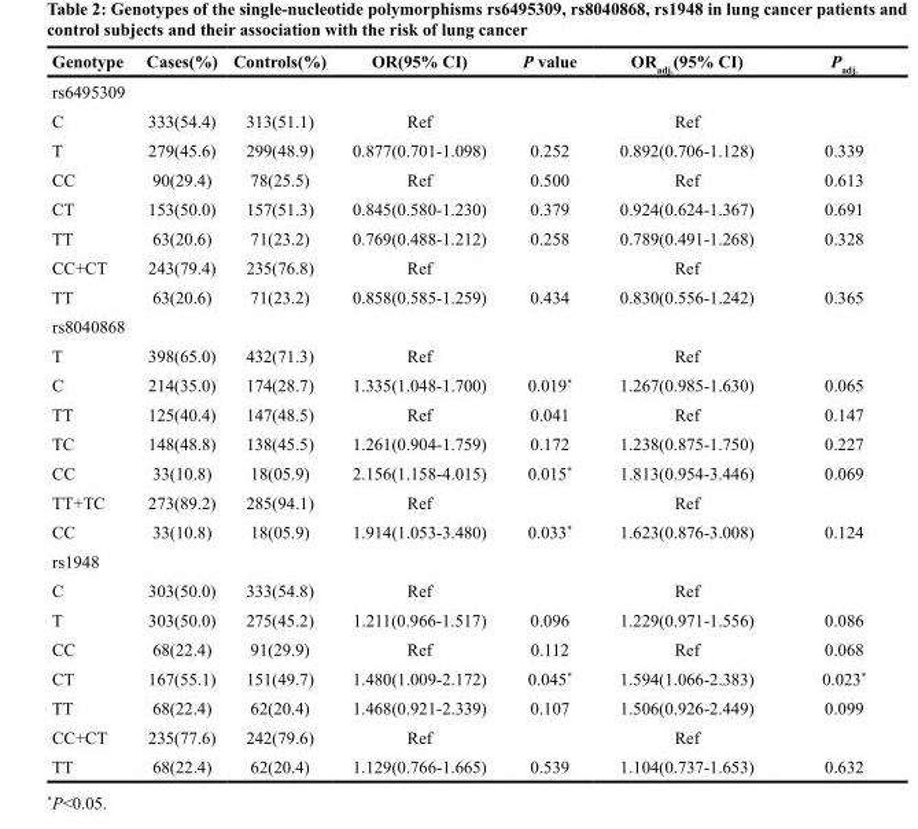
<table><thead><tr><td>Genotype</td><td>Cases(%)</td><td>Controls(%)</td><td>OR(95% CI)</td><td>P value</td><td>OR<sub>adj.</sub>(95% CI)</td><td>P<sub>adj.</sub></td></tr></thead><tbody><tr><td colspan="7">rs6495309</td></tr><tr><td>C</td><td>333(54.4)</td><td>313(51.1)</td><td>Ref</td><td></td><td>Ref</td><td></td></tr><tr><td>T</td><td>279(45.6)</td><td>299(48.9)</td><td>0.877(0.701-1.098)</td><td>0.252</td><td>0.892(0.706-1.128)</td><td>0.339</td></tr><tr><td>CC</td><td>90(29.4)</td><td>78(25.5)</td><td>Ref</td><td>0.500</td><td>Ref</td><td>0.613</td></tr><tr><td>CT</td><td>153(50.0)</td><td>157(51.3)</td><td>0.845(0.580-1.230)</td><td>0.379</td><td>0.924(0.624-1.367)</td><td>0.691</td></tr><tr><td>TT</td><td>63(20.6)</td><td>71(23.2)</td><td>0.769(0.488-1.212)</td><td>0.258</td><td>0.789(0.491-1.268)</td><td>0.328</td></tr><tr><td>CC+CT</td><td>243(79.4)</td><td>235(76.8)</td><td>Ref</td><td></td><td>Ref</td><td></td></tr><tr><td>TT</td><td>63(20.6)</td><td>71(23.2)</td><td>0.858(0.585-1.259)</td><td>0.434</td><td>0.830(0.556-1.242)</td><td>0.365</td></tr><tr><td colspan="7">rs8040868</td></tr><tr><td>T</td><td>398(65.0)</td><td>432(71.3)</td><td>Ref</td><td></td><td>Ref</td><td></td></tr><tr><td>C</td><td>214(35.0)</td><td>174(28.7)</td><td>1.335(1.048-1.700)</td><td>0.019*</td><td>1.267(0.985-1.630)</td><td>0.065</td></tr><tr><td>TT</td><td>125(40.4)</td><td>147(48.5)</td><td>Ref</td><td>0.041</td><td>Ref</td><td>0.147</td></tr><tr><td>TC</td><td>148(48.8)</td><td>138(45.5)</td><td>1.261(0.904-1.759)</td><td>0.172</td><td>1.238(0.875-1.750)</td><td>0.227</td></tr><tr><td>CC</td><td>33(10.8)</td><td>18(05.9)</td><td>2.156(1.158-4.015)</td><td>0.015*</td><td>1.813(0.954-3.446)</td><td>0.069</td></tr><tr><td>TT+TC</td><td>273(89.2)</td><td>285(94.1)</td><td>Ref</td><td></td><td>Ref</td><td></td></tr><tr><td>CC</td><td>33(10.8)</td><td>18(05.9)</td><td>1.914(1.053-3.480)</td><td>0.033*</td><td>1.623(0.876-3.008)</td><td>0.124</td></tr><tr><td colspan="7">rs1948</td></tr><tr><td>C</td><td>303(50.0)</td><td>333(54.8)</td><td>Ref</td><td></td><td>Ref</td><td></td></tr><tr><td>T</td><td>303(50.0)</td><td>275(45.2)</td><td>1.211(0.966-1.517)</td><td>0.096</td><td>1.229(0.971-1.556)</td><td>0.086</td></tr><tr><td>CC</td><td>68(22.4)</td><td>91(29.9)</td><td>Ref</td><td>0.112</td><td>Ref</td><td>0.068</td></tr><tr><td>CT</td><td>167(55.1)</td><td>151(49.7)</td><td>1.480(1.009-2.172)</td><td>0.045*</td><td>1.594(1.066-2.383)</td><td>0.023*</td></tr><tr><td>TT</td><td>68(22.4)</td><td>62(20.4)</td><td>1.468(0.921-2.339)</td><td>0.107</td><td>1.506(0.926-2.449)</td><td>0.099</td></tr><tr><td>CC+CT</td><td>235(77.6)</td><td>242(79.6)</td><td>Ref</td><td></td><td>Ref</td><td></td></tr><tr><td>TT</td><td>68(22.4)</td><td>62(20.4)</td><td>1.129(0.766-1.665)</td><td>0.539</td><td>1.104(0.737-1.653)</td><td>0.632</td></tr></tbody></table>